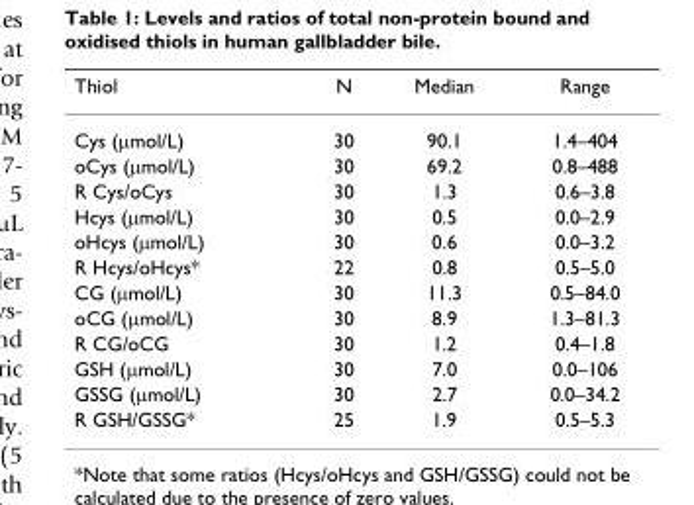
<table><thead><tr><td>Thiol</td><td>N</td><td>Median</td><td>Range</td></tr></thead><tbody><tr><td>Cys (µmol/L)</td><td>30</td><td>90.1</td><td>1.4–404</td></tr><tr><td>oCys (µmol/L)</td><td>30</td><td>69.2</td><td>0.8–488</td></tr><tr><td>R Cys/oCys</td><td>30</td><td>1.3</td><td>0.6–3.8</td></tr><tr><td>Hcys (µmol/L)</td><td>30</td><td>0.5</td><td>0.0–2.9</td></tr><tr><td>oHcys (µmol/L)</td><td>30</td><td>0.6</td><td>0.0–3.2</td></tr><tr><td>R Hcys/oHcys*</td><td>22</td><td>0.8</td><td>0.5–5.0</td></tr><tr><td>CG (µmol/L)</td><td>30</td><td>11.3</td><td>0.5–84.0</td></tr><tr><td>oCG (µmol/L)</td><td>30</td><td>8.9</td><td>1.3–81.3</td></tr><tr><td>R CG/oCG</td><td>30</td><td>1.2</td><td>0.4–1.8</td></tr><tr><td>GSH (µmol/L)</td><td>30</td><td>7.0</td><td>0.0–106</td></tr><tr><td>GSSG (µmol/L)</td><td>30</td><td>2.7</td><td>0.0–34.2</td></tr><tr><td>R GSH/GSSG*</td><td>25</td><td>1.9</td><td>0.5–5.3</td></tr></tbody></table>